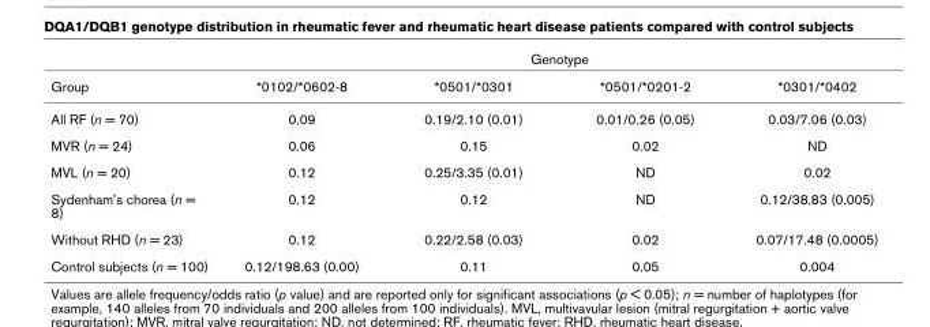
<table><thead><tr><td rowspan="2">Group</td><td colspan="4">Genotype</td></tr><tr><td>*0102/*0602-8</td><td>*0501/*0301</td><td>*0501/*0201-2</td><td>*0301/*0402</td></tr></thead><tbody><tr><td>All RF (n = 70)</td><td>0.09</td><td>0.19/2.10 (0.01)</td><td>0.01/0.26 (0.05)</td><td>0.03/7.06 (0.03)</td></tr><tr><td>MVR (n = 24)</td><td>0.06</td><td>0.15</td><td>0.02</td><td>ND</td></tr><tr><td>MVL (n = 20)</td><td>0.12</td><td>0.25/3.35 (0.01)</td><td>ND</td><td>0.02</td></tr><tr><td>Sydenham&#x27;s chorea (n = 8)</td><td>0.12</td><td>0.12</td><td>ND</td><td>0.12/38.83 (0.005)</td></tr><tr><td>Without RHD (n = 23)</td><td>0.12</td><td>0.22/2.58 (0.03)</td><td>0.02</td><td>0.07/17.48 (0.0005)</td></tr><tr><td>Control subjects (n = 100)</td><td>0.12/198.63 (0.00)</td><td>0.11</td><td>0.05</td><td>0.004</td></tr></tbody></table>